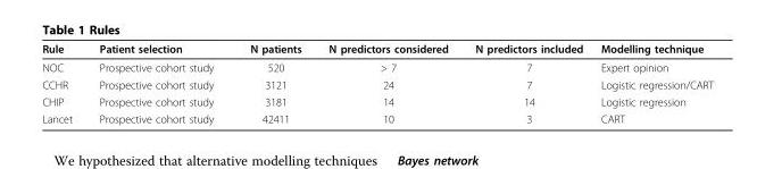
<table><thead><tr><td>Rule</td><td>Patient selection</td><td>N patients</td><td>N predictors considered</td><td>N predictors included</td><td>Modelling technique</td></tr></thead><tbody><tr><td>NOC</td><td>Prospective cohort study</td><td>520</td><td>&gt; 7</td><td>7</td><td>Expert opinion</td></tr><tr><td>CCHR</td><td>Prospective cohort study</td><td>3121</td><td>24</td><td>7</td><td>Logistic regression/CART</td></tr><tr><td>CHIP</td><td>Prospective cohort study</td><td>3181</td><td>14</td><td>14</td><td>Logistic regression</td></tr><tr><td>Lancet</td><td>Prospective cohort study</td><td>42411</td><td>10</td><td>3</td><td>CART</td></tr></tbody></table>